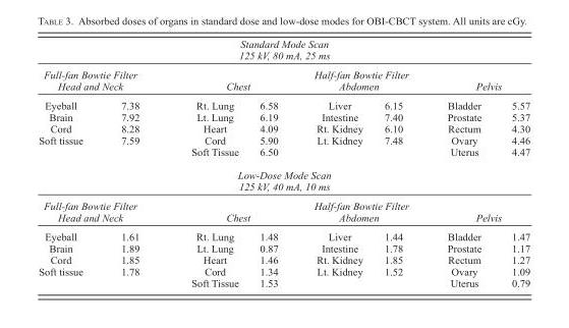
<table><thead><tr><td></td><td></td><td colspan="4">Standard Mode Scan 125 kV, 80 mA, 25 ms</td><td></td><td></td></tr><tr><td colspan="2">Full-fan Bowtie Filter Head and Neck</td><td colspan="2">Chest</td><td colspan="2">Half-fan Bowtie Filter Abdomen</td><td colspan="2">Pelvis</td></tr><tr><td>Eyeball</td><td>7.38</td><td>Rt. Lung</td><td>6.58</td><td>Liver</td><td>6.15</td><td>Bladder</td><td>5.57</td></tr></thead><tbody><tr><td>Brain</td><td>7.92</td><td>Lt. Lung</td><td>6.19</td><td>Intestine</td><td>7.40</td><td>Prostate</td><td>5.37</td></tr><tr><td>Cord</td><td>8.28</td><td>Heart</td><td>4.09</td><td>Rt. Kidney</td><td>6.10</td><td>Rectum</td><td>4.30</td></tr><tr><td rowspan="3">Soft tissue</td><td>7.59</td><td>Cord</td><td>5.90</td><td>Lt. Kidney</td><td>7.48</td><td>Ovary</td><td>4.46</td></tr><tr><td></td><td>Soft Tissue</td><td>6.50</td><td></td><td></td><td>Uterus</td><td>4.47</td></tr><tr><td></td><td colspan="4">Low-Dose Mode Scan 125 kV, 40 mA, 10 ms</td><td></td><td></td></tr><tr><td colspan="2">Full-fan Bowtie Filter Head and Neck</td><td colspan="2">Chest</td><td colspan="2">Half-fan Bowtie Filter Abdomen</td><td colspan="2">Pelvis</td></tr><tr><td>Eyeball</td><td>1.61</td><td>Rt. Lung</td><td>1.48</td><td>Liver</td><td>1.44</td><td>Bladder</td><td>1.47</td></tr><tr><td>Brain</td><td>1.89</td><td>Lt. Lung</td><td>0.87</td><td>Intestine</td><td>1.78</td><td>Prostate</td><td>1.17</td></tr><tr><td>Cord</td><td>1.85</td><td>Heart</td><td>1.46</td><td>Rt. Kidney</td><td>1.85</td><td>Rectum</td><td>1.27</td></tr><tr><td rowspan="2">Soft tissue</td><td>1.78</td><td>Cord</td><td>1.34</td><td>Lt. Kidney</td><td>1.52</td><td>Ovary</td><td>1.09</td></tr><tr><td></td><td>Soft Tissue</td><td>1.53</td><td></td><td></td><td>Uterus</td><td>0.79</td></tr></tbody></table>